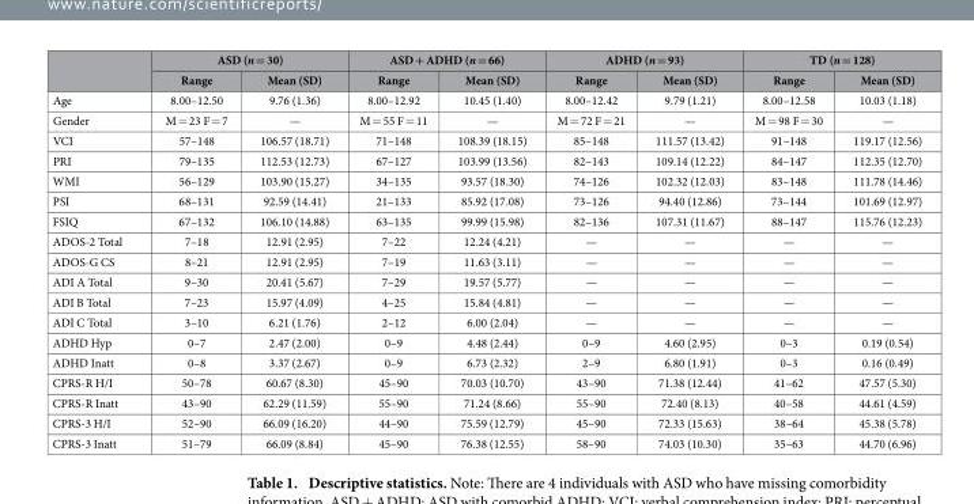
<table><thead><tr><td rowspan="2"></td><td colspan="2">ASD (n = 30)</td><td colspan="2">ASD + ADHD (n = 66)</td><td colspan="2">ADHD (n = 93)</td><td colspan="2">TD (n = 128)</td></tr><tr><td>Range</td><td>Mean (SD)</td><td>Range</td><td>Mean (SD)</td><td>Range</td><td>Mean (SD)</td><td>Range</td><td>Mean (SD)</td></tr></thead><tbody><tr><td>Age</td><td>8.00–12.50</td><td>9.76 (1.36)</td><td>8.00–12.92</td><td>10.45 (1.40)</td><td>8.00–12.42</td><td>9.79 (1.21)</td><td>8.00–12.58</td><td>10.03 (1.18)</td></tr><tr><td>Gender</td><td>M = 23 F = 7</td><td>—</td><td>M = 55 F = 11</td><td>—</td><td>M = 72 F = 21</td><td>—</td><td>M = 98 F = 30</td><td>—</td></tr><tr><td>VCI</td><td>57–148</td><td>106.57 (18.71)</td><td>71–148</td><td>108.39 (18.15)</td><td>85–148</td><td>111.57 (13.42)</td><td>91–148</td><td>119.17 (12.56)</td></tr><tr><td>PRI</td><td>79–135</td><td>112.53 (12.73)</td><td>67–127</td><td>103.99 (13.56)</td><td>82–143</td><td>109.14 (12.22)</td><td>84–147</td><td>112.35 (12.70)</td></tr><tr><td>WMI</td><td>56–129</td><td>103.90 (15.27)</td><td>34–135</td><td>93.57 (18.30)</td><td>74–126</td><td>102.32 (12.03)</td><td>83–148</td><td>111.78 (14.46)</td></tr><tr><td>PSI</td><td>68–131</td><td>92.59 (14.41)</td><td>21–133</td><td>85.92 (17.08)</td><td>73–126</td><td>94.40 (12.86)</td><td>73–144</td><td>101.69 (12.97)</td></tr><tr><td>FSIQ</td><td>67–132</td><td>106.10 (14.88)</td><td>63–135</td><td>99.99 (15.98)</td><td>82–136</td><td>107.31 (11.67)</td><td>88–147</td><td>115.76 (12.23)</td></tr><tr><td>ADOS-2 Total</td><td>7–18</td><td>12.91 (2.95)</td><td>7–22</td><td>12.24 (4.21)</td><td>—</td><td>—</td><td>—</td><td>—</td></tr><tr><td>ADOS-G CS</td><td>8–21</td><td>12.91 (2.95)</td><td>7–19</td><td>11.63 (3.11)</td><td>—</td><td>—</td><td>—</td><td>—</td></tr><tr><td>ADI A Total</td><td>9–30</td><td>20.41 (5.67)</td><td>7–29</td><td>19.57 (5.77)</td><td>—</td><td>—</td><td>—</td><td>—</td></tr><tr><td>ADI B Total</td><td>7–23</td><td>15.97 (4.09)</td><td>4–25</td><td>15.84 (4.81)</td><td>—</td><td>—</td><td>—</td><td>—</td></tr><tr><td>ADI C Total</td><td>3–10</td><td>6.21 (1.76)</td><td>2–12</td><td>6.00 (2.04)</td><td>—</td><td>—</td><td>—</td><td>—</td></tr><tr><td>ADHD Hyp</td><td>0–7</td><td>2.47 (2.00)</td><td>0–9</td><td>4.48 (2.44)</td><td>0–9</td><td>4.60 (2.95)</td><td>0–3</td><td>0.19 (0.54)</td></tr><tr><td>ADHD Inatt</td><td>0–8</td><td>3.37 (2.67)</td><td>0–9</td><td>6.73 (2.32)</td><td>2–9</td><td>6.80 (1.91)</td><td>0–3</td><td>0.16 (0.49)</td></tr><tr><td>CPRS-R H/I</td><td>50–78</td><td>60.67 (8.30)</td><td>45–90</td><td>70.03 (10.70)</td><td>43–90</td><td>71.38 (12.44)</td><td>41–62</td><td>47.57 (5.30)</td></tr><tr><td>CPRS-R Inatt</td><td>43–90</td><td>62.29 (11.59)</td><td>55–90</td><td>71.24 (8.66)</td><td>55–90</td><td>72.40 (8.13)</td><td>40–58</td><td>44.61 (4.59)</td></tr><tr><td>CPRS-3 H/I</td><td>52–90</td><td>66.09 (16.20)</td><td>44–90</td><td>75.59 (12.79)</td><td>45–90</td><td>72.33 (15.63)</td><td>38–64</td><td>45.38 (5.78)</td></tr><tr><td>CPRS-3 Inatt</td><td>51–79</td><td>66.09 (8.84)</td><td>45–90</td><td>76.38 (12.55)</td><td>58–90</td><td>74.03 (10.30)</td><td>35–63</td><td>44.70 (6.96)</td></tr></tbody></table>